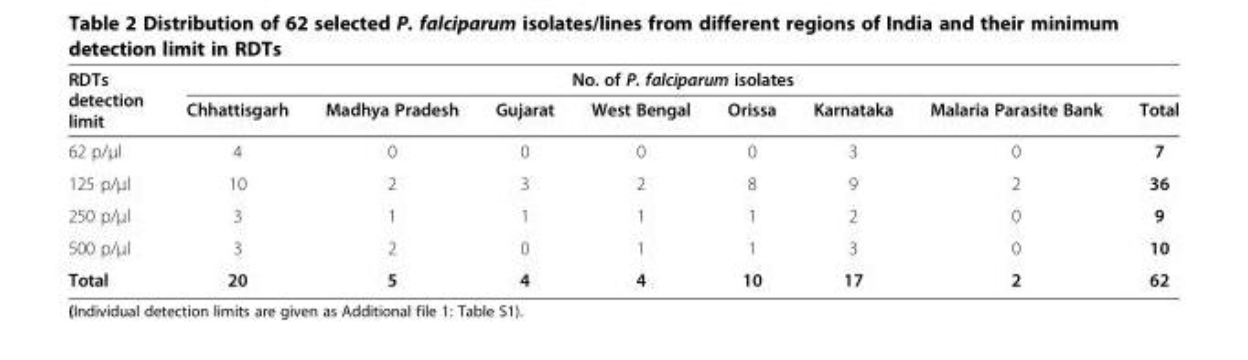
<table><thead><tr><td rowspan="2">RDTs detection limit</td><td colspan="8">No. of P. falciparum isolates</td></tr><tr><td>Chhattisgarh</td><td>Madhya Pradesh</td><td>Gujarat</td><td>West Bengal</td><td>Orissa</td><td>Karnataka</td><td>Malaria Parasite Bank</td><td>Total</td></tr></thead><tbody><tr><td>62 p/μl</td><td>4</td><td>0</td><td>0</td><td>0</td><td>0</td><td>3</td><td>0</td><td>7</td></tr><tr><td>125 p/μl</td><td>10</td><td>2</td><td>3</td><td>2</td><td>8</td><td>9</td><td>2</td><td>36</td></tr><tr><td>250 p/μl</td><td>3</td><td>1</td><td>1</td><td>1</td><td>1</td><td>2</td><td>0</td><td>9</td></tr><tr><td>500 p/μl</td><td>3</td><td>2</td><td>0</td><td>1</td><td>1</td><td>3</td><td>0</td><td>10</td></tr><tr><td>Total</td><td>20</td><td>5</td><td>4</td><td>4</td><td>10</td><td>17</td><td>2</td><td>62</td></tr></tbody></table>